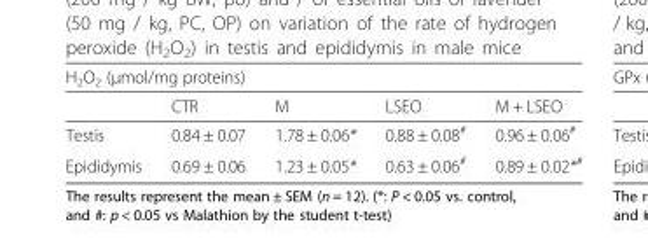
<table><thead><tr><td colspan="5">H<sub>2</sub>O<sub>2</sub> (μmol/mg proteins)</td></tr><tr><td></td><td>CTR</td><td>M</td><td>LSEO</td><td>M + LSEO</td></tr></thead><tbody><tr><td>Testis</td><td>0.84 ± 0.07</td><td>1.78 ± 0.06*</td><td>0.88 ± 0.08<sup>#</sup></td><td>0.96 ± 0.06<sup>#</sup></td></tr><tr><td>Epididymis</td><td>0.69 ± 0.06</td><td>1.23 ± 0.05*</td><td>0.63 ± 0.06<sup>#</sup></td><td>0.89 ± 0.02*<sup>#</sup></td></tr></tbody></table>